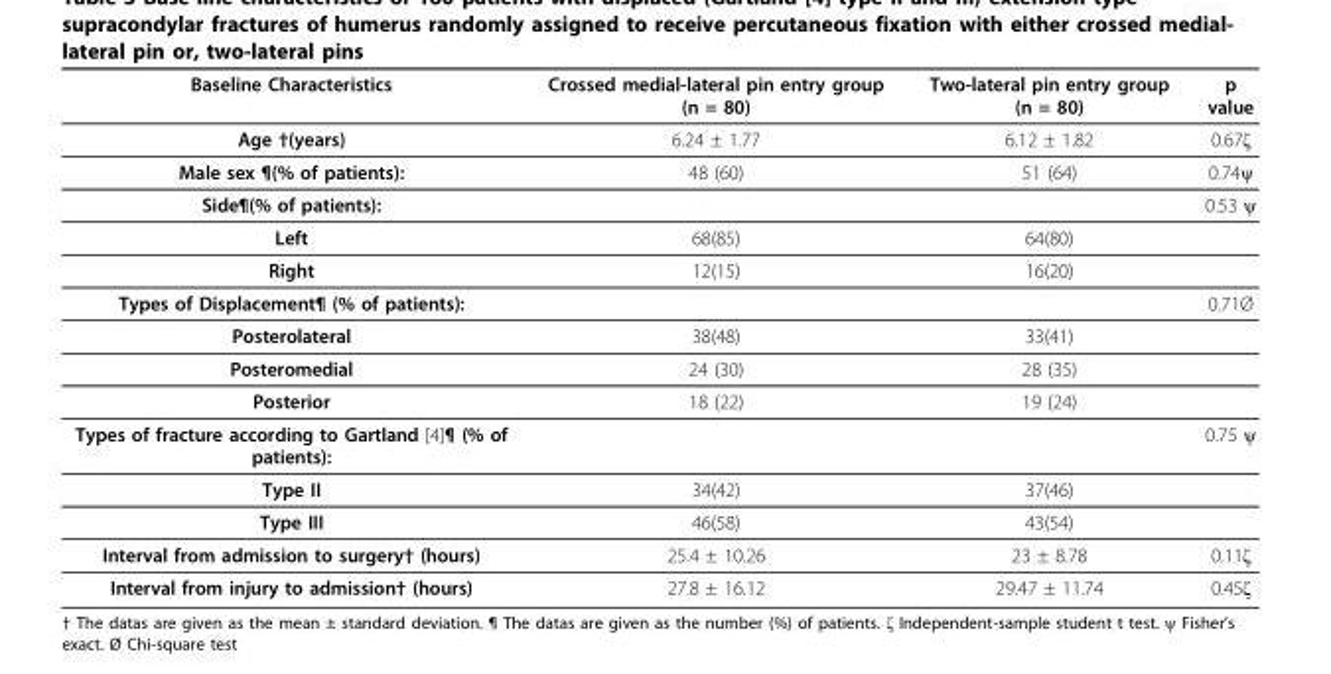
<table><thead><tr><td>Baseline Characteristics</td><td>Crossed medial-lateral pin entry group (n = 80)</td><td>Two-lateral pin entry group (n = 80)</td><td>p value</td></tr></thead><tbody><tr><td>Age †(years)</td><td>6.24 ± 1.77</td><td>6.12 ± 1.82</td><td>0.67ζ</td></tr><tr><td>Male sex ¶(% of patients):</td><td>48 (60)</td><td>51 (64)</td><td>0.74ψ</td></tr><tr><td>Side¶(% of patients):</td><td></td><td></td><td>0.53 ψ</td></tr><tr><td>Left</td><td>68(85)</td><td>64(80)</td><td></td></tr><tr><td>Right</td><td>12(15)</td><td>16(20)</td><td></td></tr><tr><td>Types of Displacement¶ (% of patients):</td><td></td><td></td><td>0.71Ø</td></tr><tr><td>Posterolateral</td><td>38(48)</td><td>33(41)</td><td></td></tr><tr><td>Posteromedial</td><td>24 (30)</td><td>28 (35)</td><td></td></tr><tr><td>Posterior</td><td>18 (22)</td><td>19 (24)</td><td></td></tr><tr><td>Types of fracture according to Gartland [4]¶ (% of patients):</td><td></td><td></td><td>0.75 ψ</td></tr><tr><td>Type II</td><td>34(42)</td><td>37(46)</td><td></td></tr><tr><td>Type III</td><td>46(58)</td><td>43(54)</td><td></td></tr><tr><td>Interval from admission to surgery† (hours)</td><td>25.4 ± 10.26</td><td>23 ± 8.78</td><td>0.11ζ</td></tr><tr><td>Interval from injury to admission† (hours)</td><td>27.8 ± 16.12</td><td>29.47 ± 11.74</td><td>0.45ζ</td></tr></tbody></table>